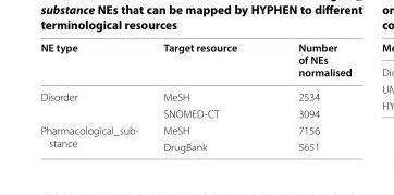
<table><thead><tr><td>NE type</td><td>Target resource</td><td>Number of NEs normalised</td></tr></thead><tbody><tr><td rowspan="2">Disorder</td><td>MeSH</td><td>2534</td></tr><tr><td>SNOMED‑CT</td><td>3094</td></tr><tr><td rowspan="2">Pharmacological_sub‑ stance</td><td>MeSH</td><td>7156</td></tr><tr><td>DrugBank</td><td>5651</td></tr></tbody></table>